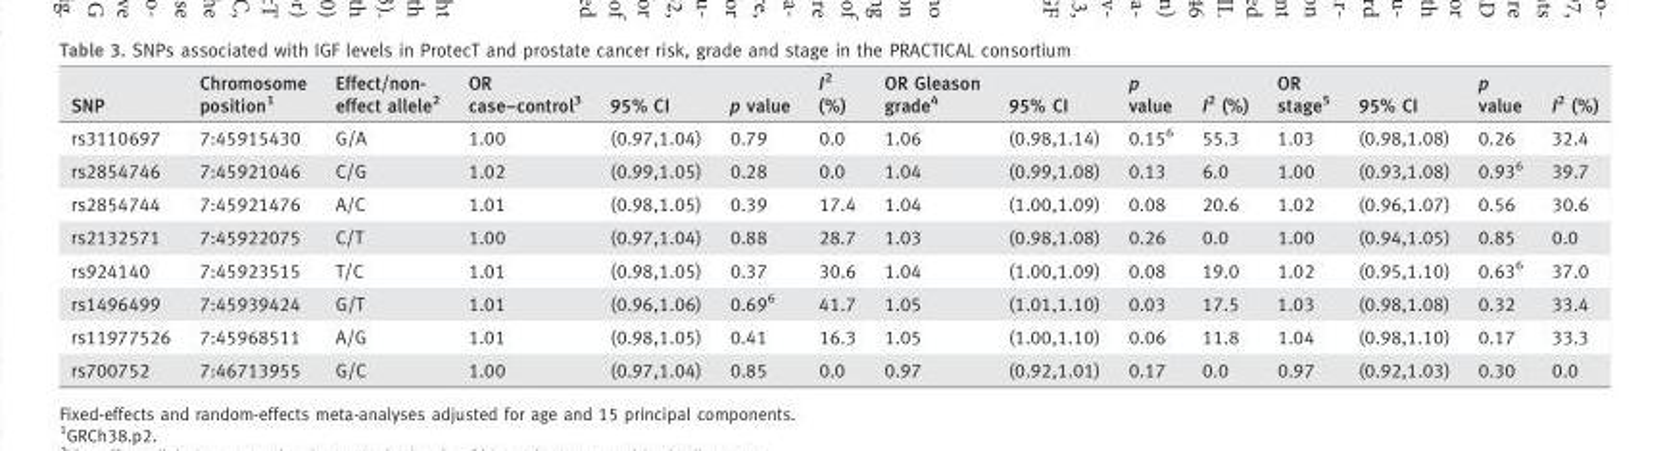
<table><thead><tr><td>SNP</td><td>Chromosome position1</td><td>Effect/non- effect allele2</td><td>OR case–control3</td><td>95% CI</td><td>p value</td><td>I2 (%)</td><td>OR Gleason grade4</td><td>95% CI</td><td>p value</td><td>I2 (%)</td><td>OR stage5</td><td>95% CI</td><td>p value</td><td>I2 (%)</td></tr></thead><tbody><tr><td>rs3110697</td><td>7:45915430</td><td>G/A</td><td>1.00</td><td>(0.97,1.04)</td><td>0.79</td><td>0.0</td><td>1.06</td><td>(0.98,1.14)</td><td>0.156</td><td>55.3</td><td>1.03</td><td>(0.98,1.08)</td><td>0.26</td><td>32.4</td></tr><tr><td>rs2854746</td><td>7:45921046</td><td>C/G</td><td>1.02</td><td>(0.99,1.05)</td><td>0.28</td><td>0.0</td><td>1.04</td><td>(0.99,1.08)</td><td>0.13</td><td>6.0</td><td>1.00</td><td>(0.93,1.08)</td><td>0.936</td><td>39.7</td></tr><tr><td>rs2854744</td><td>7:45921476</td><td>A/C</td><td>1.01</td><td>(0.98,1.05)</td><td>0.39</td><td>17.4</td><td>1.04</td><td>(1.00,1.09)</td><td>0.08</td><td>20.6</td><td>1.02</td><td>(0.96,1.07)</td><td>0.56</td><td>30.6</td></tr><tr><td>rs2132571</td><td>7:45922075</td><td>C/T</td><td>1.00</td><td>(0.97,1.04)</td><td>0.88</td><td>28.7</td><td>1.03</td><td>(0.98,1.08)</td><td>0.26</td><td>0.0</td><td>1.00</td><td>(0.94,1.05)</td><td>0.85</td><td>0.0</td></tr><tr><td>rs924140</td><td>7:45923515</td><td>T/C</td><td>1.01</td><td>(0.98,1.05)</td><td>0.37</td><td>30.6</td><td>1.04</td><td>(1.00,1.09)</td><td>0.08</td><td>19.0</td><td>1.02</td><td>(0.95,1.10)</td><td>0.636</td><td>37.0</td></tr><tr><td>rs1496499</td><td>7:45939424</td><td>G/T</td><td>1.01</td><td>(0.96,1.06)</td><td>0.696</td><td>41.7</td><td>1.05</td><td>(1.01,1.10)</td><td>0.03</td><td>17.5</td><td>1.03</td><td>(0.98,1.08)</td><td>0.32</td><td>33.4</td></tr><tr><td>rs11977526</td><td>7:45968511</td><td>A/G</td><td>1.01</td><td>(0.98,1.05)</td><td>0.41</td><td>16.3</td><td>1.05</td><td>(1.00,1.10)</td><td>0.06</td><td>11.8</td><td>1.04</td><td>(0.98,1.10)</td><td>0.17</td><td>33.3</td></tr><tr><td>rs700752</td><td>7:46713955</td><td>G/C</td><td>1.00</td><td>(0.97,1.04)</td><td>0.85</td><td>0.0</td><td>0.97</td><td>(0.92,1.01)</td><td>0.17</td><td>0.0</td><td>0.97</td><td>(0.92,1.03)</td><td>0.30</td><td>0.0</td></tr></tbody></table>